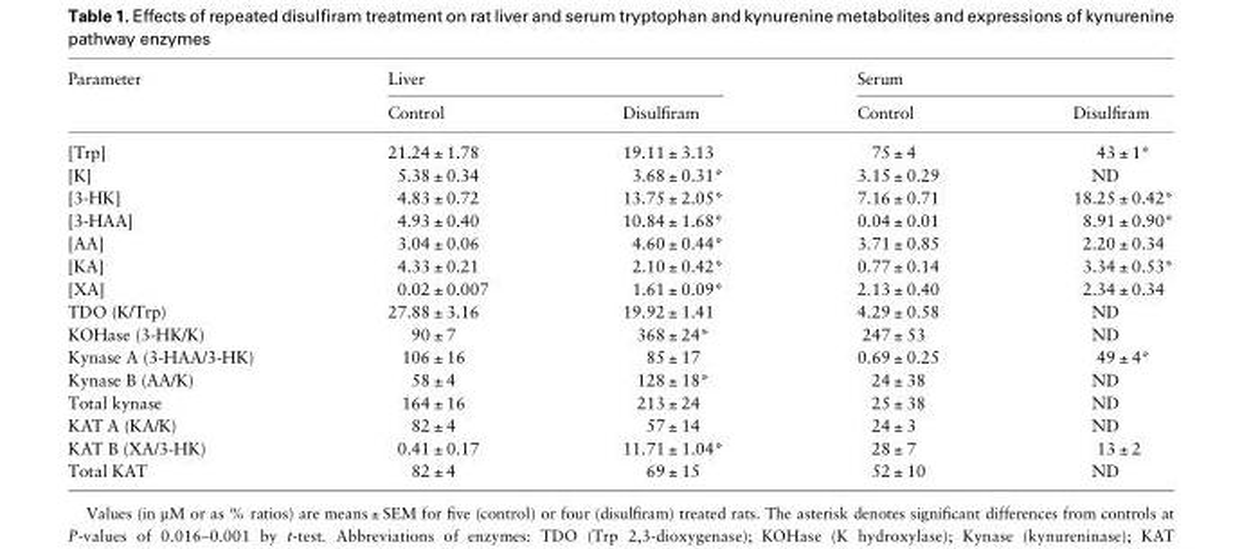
<table><thead><tr><td rowspan="2">Parameter</td><td colspan="2">Liver</td><td colspan="2">Serum</td></tr><tr><td>Control</td><td>Disulfiram</td><td>Control</td><td>Disulfiram</td></tr></thead><tbody><tr><td>[Trp]</td><td>21.24 ± 1.78</td><td>19.11 ± 3.13</td><td>75 ± 4</td><td>43 ± 1*</td></tr><tr><td>[K]</td><td>5.38 ± 0.34</td><td>3.68 ± 0.31*</td><td>3.15 ± 0.29</td><td>ND</td></tr><tr><td>[3-HK]</td><td>4.83 ± 0.72</td><td>13.75 ± 2.05*</td><td>7.16 ± 0.71</td><td>18.25 ± 0.42*</td></tr><tr><td>[3-HAA]</td><td>4.93 ± 0.40</td><td>10.84 ± 1.68*</td><td>0.04 ± 0.01</td><td>8.91 ± 0.90*</td></tr><tr><td>[AA]</td><td>3.04 ± 0.06</td><td>4.60 ± 0.44*</td><td>3.71 ± 0.85</td><td>2.20 ± 0.34</td></tr><tr><td>[KA]</td><td>4.33 ± 0.21</td><td>2.10 ± 0.42*</td><td>0.77 ± 0.14</td><td>3.34 ± 0.53*</td></tr><tr><td>[XA]</td><td>0.02 ± 0.007</td><td>1.61 ± 0.09*</td><td>2.13 ± 0.40</td><td>2.34 ± 0.34</td></tr><tr><td>TDO (K/Trp)</td><td>27.88 ± 3.16</td><td>19.92 ± 1.41</td><td>4.29 ± 0.58</td><td>ND</td></tr><tr><td>KOHase (3-HK/K)</td><td>90 ± 7</td><td>368 ± 24*</td><td>247 ± 53</td><td>ND</td></tr><tr><td>Kynase A (3-HAA/3-HK)</td><td>106 ± 16</td><td>85 ± 17</td><td>0.69 ± 0.25</td><td>49 ± 4*</td></tr><tr><td>Kynase B (AA/K)</td><td>58 ± 4</td><td>128 ± 18*</td><td>24 ± 38</td><td>ND</td></tr><tr><td>Total kynase</td><td>164 ± 16</td><td>213 ± 24</td><td>25 ± 38</td><td>ND</td></tr><tr><td>KAT A (KA/K)</td><td>82 ± 4</td><td>57 ± 14</td><td>24 ± 3</td><td>ND</td></tr><tr><td>KAT B (XA/3-HK)</td><td>0.41 ± 0.17</td><td>11.71 ± 1.04*</td><td>28 ± 7</td><td>13 ± 2</td></tr><tr><td>Total KAT</td><td>82 ± 4</td><td>69 ± 15</td><td>52 ± 10</td><td>ND</td></tr></tbody></table>